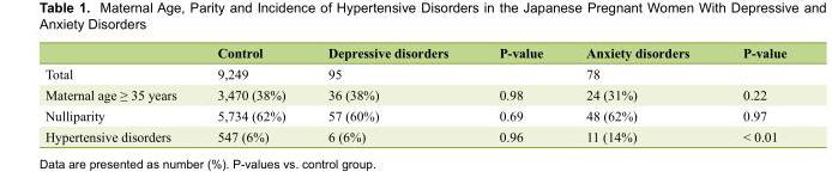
<table><thead><tr><td></td><td>Control</td><td>Depressive disorders</td><td>P-value</td><td>Anxiety disorders</td><td>P-value</td></tr></thead><tbody><tr><td>Total</td><td>9,249</td><td>95</td><td></td><td>78</td><td></td></tr><tr><td>Maternal age ≥ 35 years</td><td>3,470 (38%)</td><td>36 (38%)</td><td>0.98</td><td>24 (31%)</td><td>0.22</td></tr><tr><td>Nulliparity</td><td>5,734 (62%)</td><td>57 (60%)</td><td>0.69</td><td>48 (62%)</td><td>0.97</td></tr><tr><td>Hypertensive disorders</td><td>547 (6%)</td><td>6 (6%)</td><td>0.96</td><td>11 (14%)</td><td>&lt; 0.01</td></tr></tbody></table>